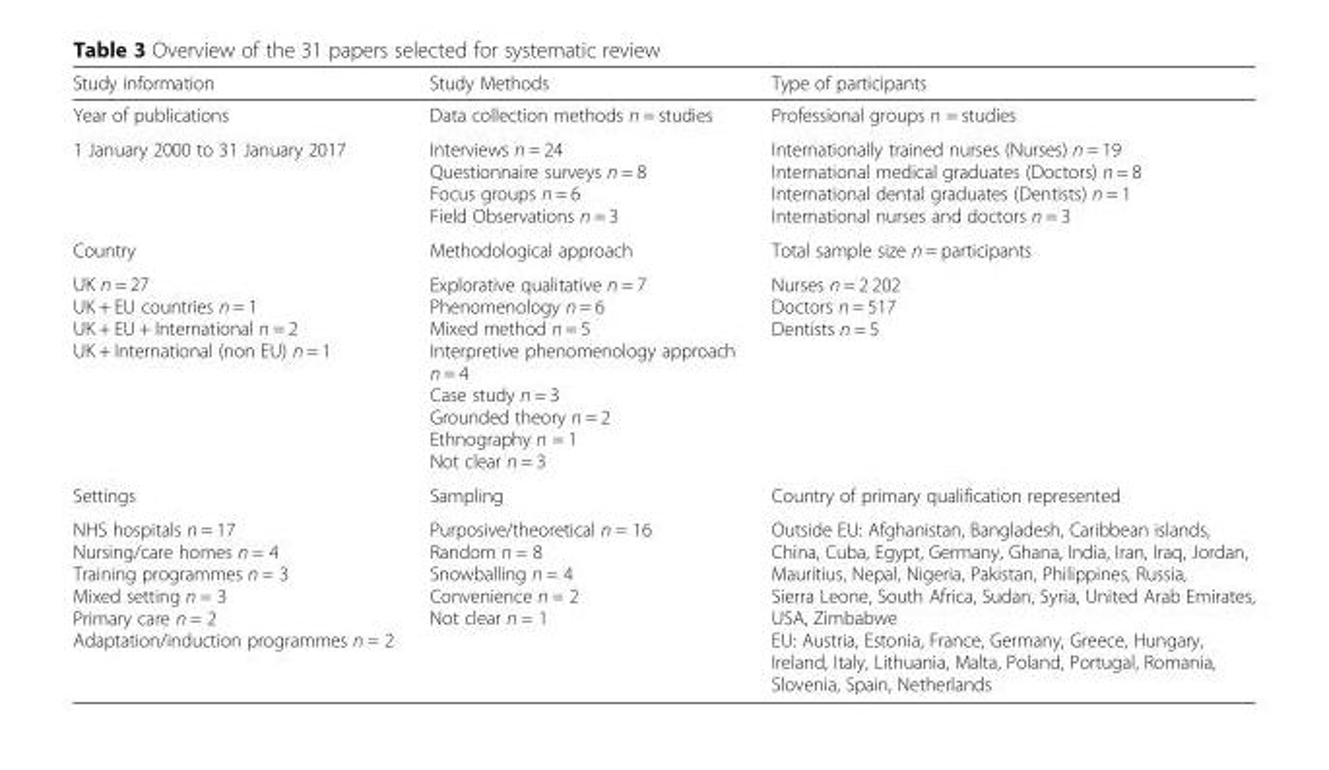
<table><thead><tr><td>Study information</td><td>Study Methods</td><td>Type of participants</td></tr></thead><tbody><tr><td>Year of publications</td><td>Data collection methods n = studies</td><td>Professional groups n = studies</td></tr><tr><td>1 January 2000 to 31 January 2017</td><td>Interviews n = 24 Questionnaire surveys n = 8 Focus groups n = 6 Field Observations n = 3</td><td>Internationally trained nurses (Nurses) n = 19 International medical graduates (Doctors) n = 8 International dental graduates (Dentists) n = 1 International nurses and doctors n = 3</td></tr><tr><td>Country</td><td>Methodological approach</td><td>Total sample size n = participants</td></tr><tr><td>UK n = 27 UK + EU countries n = 1 UK + EU + International n = 2 UK + International (non EU) n = 1</td><td>Explorative qualitative n = 7 Phenomenology n = 6 Mixed method n = 5 Interpretive phenomenology approach n = 4 Case study n = 3 Grounded theory n = 2 Ethnography n = 1 Not clear n = 3</td><td>Nurses n = 2 202 Doctors n = 517 Dentists n = 5</td></tr><tr><td>Settings</td><td>Sampling</td><td>Country of primary qualification represented</td></tr><tr><td>NHS hospitals n = 17 Nursing/care homes n = 4 Training programmes n = 3 Mixed setting n = 3 Primary care n = 2 Adaptation/induction programmes n = 2</td><td>Purposive/theoretical n = 16 Random n = 8 Snowballing n = 4 Convenience n = 2 Not clear n = 1</td><td>Outside EU: Afghanistan, Bangladesh, Caribbean islands, China, Cuba, Egypt, Germany, Ghana, India, Iran, Iraq, Jordan, Mauritius, Nepal, Nigeria, Pakistan, Philippines, Russia, Sierra Leone, South Africa, Sudan, Syria, United Arab Emirates, USA, Zimbabwe EU: Austria, Estonia, France, Germany, Greece, Hungary, Ireland, Italy, Lithuania, Malta, Poland, Portugal, Romania, Slovenia, Spain, Netherlands</td></tr></tbody></table>